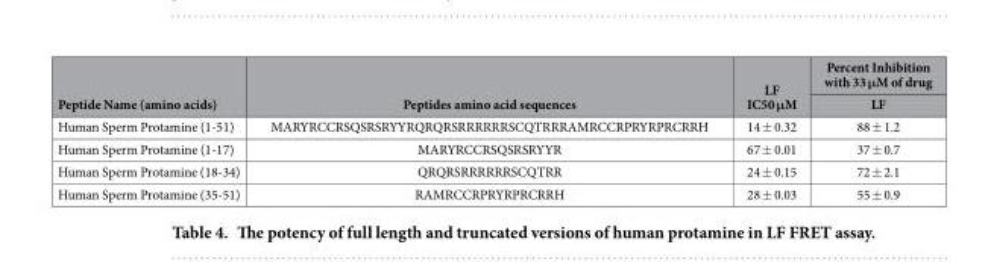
<table><thead><tr><td rowspan="2">Peptide Name (amino acids)</td><td rowspan="2">Peptides amino acid sequences</td><td rowspan="2">LF IC50 μM</td><td rowspan="2">Percent Inhibition with 33 μM of drug LF</td></tr><tr></tr></thead><tbody><tr><td>Human Sperm Protamine (1-51)</td><td>MARYRCCRSQSRSRYYRQRQRSRRRRRRSCQTRRRAMRCCRPRYRPRCRRH</td><td>14 ± 0.32</td><td>88 ± 1.2</td></tr><tr><td>Human Sperm Protamine (1-17)</td><td>MARYRCCRSQSRSRYYR</td><td>67 ± 0.01</td><td>37 ± 0.7</td></tr><tr><td>Human Sperm Protamine (18-34)</td><td>QRQRSRRRRRRSCQTRR</td><td>24 ± 0.15</td><td>72 ± 2.1</td></tr><tr><td>Human Sperm Protamine (35-51)</td><td>RAMRCCRPRYRPRCRRH</td><td>28 ± 0.03</td><td>55 ± 0.9</td></tr></tbody></table>